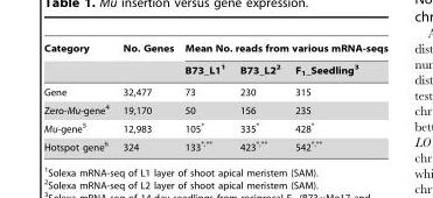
<table><thead><tr><td rowspan="2">Category</td><td rowspan="2">No. Genes</td><td colspan="3">Mean No. reads from various mRNA-seqs</td></tr><tr><td>B73_L1<sup>1</sup></td><td>B73_L2<sup>2</sup></td><td>F1_Seedling3</td></tr></thead><tbody><tr><td>Gene</td><td>32,477</td><td>73</td><td>230</td><td>315</td></tr><tr><td>Zero-Mu-gene<sup>4</sup></td><td>19,170</td><td>50</td><td>156</td><td>235</td></tr><tr><td>Mu-gene<sup>5</sup></td><td>12,983</td><td>105*</td><td>335*</td><td>428*</td></tr><tr><td>Hotspot gene<sup>6</sup></td><td>324</td><td>133*<sup>,</sup>**</td><td>423*<sup>,</sup>**</td><td>542*<sup>,</sup>**</td></tr></tbody></table>